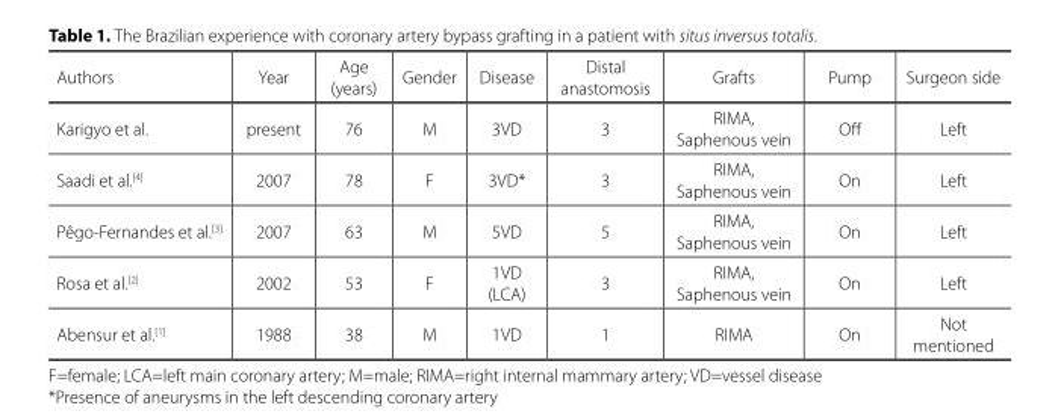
<table><thead><tr><td>Authors</td><td>Year</td><td>Age (years)</td><td>Gender</td><td>Disease</td><td>Distal anastomosis</td><td>Grafts</td><td>Pump</td><td>Surgeon side</td></tr></thead><tbody><tr><td>Karigyo et al.</td><td>present</td><td>76</td><td>M</td><td>3VD</td><td>3</td><td>RIMA, Saphenous vein</td><td>Off</td><td>Left</td></tr><tr><td>Saadi et al.<sup>[4]</sup></td><td>2007</td><td>78</td><td>F</td><td>3VD*</td><td>3</td><td>RIMA, Saphenous vein</td><td>On</td><td>Left</td></tr><tr><td>Pêgo-Fernandes et al.<sup>[3]</sup></td><td>2007</td><td>63</td><td>M</td><td>5VD</td><td>5</td><td>RIMA, Saphenous vein</td><td>On</td><td>Left</td></tr><tr><td>Rosa et al.<sup>[2]</sup></td><td>2002</td><td>53</td><td>F</td><td>1VD (LCA)</td><td>3</td><td>RIMA, Saphenous vein</td><td>On</td><td>Left</td></tr><tr><td>Abensur et al.<sup>[1]</sup></td><td>1988</td><td>38</td><td>M</td><td>1VD</td><td>1</td><td>RIMA</td><td>On</td><td>Not mentioned</td></tr></tbody></table>